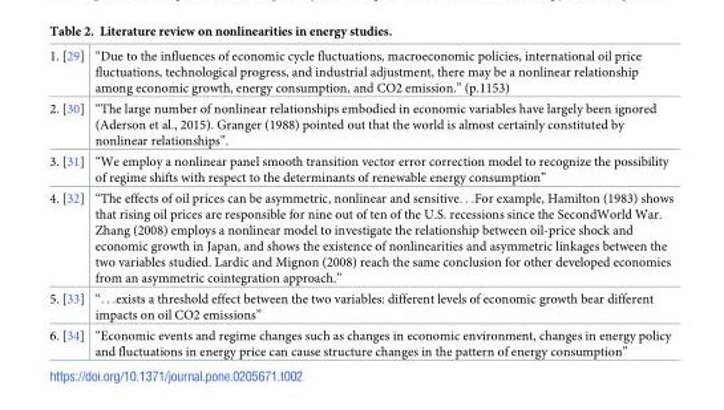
<table><tbody><tr><td>1. [29]</td><td>“Due to the influences of economic cycle fluctuations, macroeconomic policies, international oil price fluctuations, technological progress, and industrial adjustment, there may be a nonlinear relationship among economic growth, energy consumption, and CO2 emission.” (p.1153)</td></tr><tr><td>2. [30]</td><td>“The large number of nonlinear relationships embodied in economic variables have largely been ignored (Aderson et al., 2015). Granger (1988) pointed out that the world is almost certainly constituted by nonlinear relationships”.</td></tr><tr><td>3. [31]</td><td>“We employ a nonlinear panel smooth transition vector error correction model to recognize the possibility of regime shifts with respect to the determinants of renewable energy consumption”</td></tr><tr><td>4. [32]</td><td>“The effects of oil prices can be asymmetric, nonlinear and sensitive. . .For example, Hamilton (1983) shows that rising oil prices are responsible for nine out of ten of the U.S. recessions since the SecondWorld War. Zhang (2008) employs a nonlinear model to investigate the relationship between oil-price shock and economic growth in Japan, and shows the existence of nonlinearities and asymmetric linkages between the two variables studied. Lardic and Mignon (2008) reach the same conclusion for other developed economies from an asymmetric cointegration approach.”</td></tr><tr><td>5. [33]</td><td>“. . .exists a threshold effect between the two variables: different levels of economic growth bear different impacts on oil CO2 emissions”</td></tr><tr><td>6. [34]</td><td>“Economic events and regime changes such as changes in economic environment, changes in energy policy and fluctuations in energy price can cause structure changes in the pattern of energy consumption”</td></tr></tbody></table>